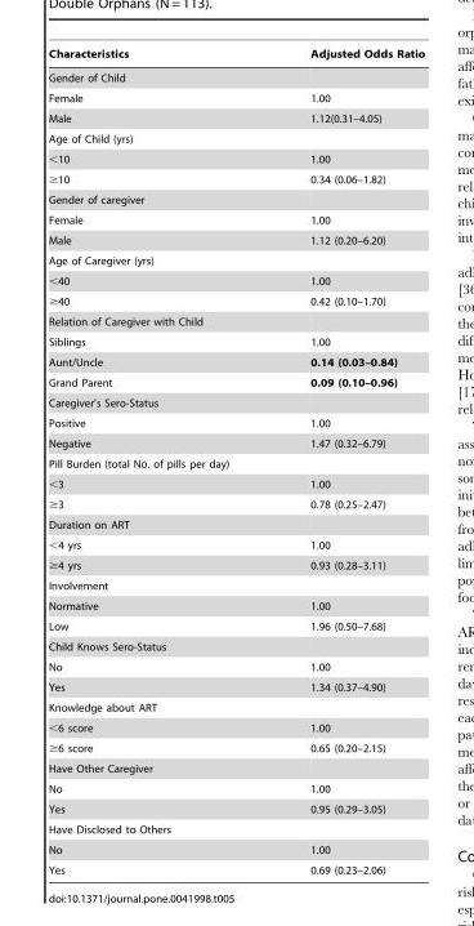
<table><thead><tr><td>Characteristics</td><td>Adjusted Odds Ratio</td></tr></thead><tbody><tr><td colspan="2">Gender of Child</td></tr><tr><td>Female</td><td>1.00</td></tr><tr><td>Male</td><td>1.12(0.31–4.05)</td></tr><tr><td colspan="2">Age of Child (yrs)</td></tr><tr><td>&lt;10</td><td>1.00</td></tr><tr><td>≥10</td><td>0.34 (0.06–1.82)</td></tr><tr><td colspan="2">Gender of caregiver</td></tr><tr><td>Female</td><td>1.00</td></tr><tr><td>Male</td><td>1.12 (0.20–6.20)</td></tr><tr><td colspan="2">Age of Caregiver (yrs)</td></tr><tr><td>&lt;40</td><td>1.00</td></tr><tr><td>≥40</td><td>0.42 (0.10–1.70)</td></tr><tr><td colspan="2">Relation of Caregiver with Child</td></tr><tr><td>Siblings</td><td>1.00</td></tr><tr><td>Aunt/Uncle</td><td>0.14 (0.03–0.84)</td></tr><tr><td>Grand Parent</td><td>0.09 (0.10–0.96)</td></tr><tr><td colspan="2">Caregiver’s Sero-Status</td></tr><tr><td>Positive</td><td>1.00</td></tr><tr><td>Negative</td><td>1.47 (0.32–6.79)</td></tr><tr><td colspan="2">Pill Burden (total No. of pills per day)</td></tr><tr><td>&lt;3</td><td>1.00</td></tr><tr><td>≥3</td><td>0.78 (0.25–2.47)</td></tr><tr><td colspan="2">Duration on ART</td></tr><tr><td>&lt;4 yrs</td><td>1.00</td></tr><tr><td>≥4 yrs</td><td>0.93 (0.28–3.11)</td></tr><tr><td colspan="2">Involvement</td></tr><tr><td>Normative</td><td>1.00</td></tr><tr><td>Low</td><td>1.96 (0.50–7.68)</td></tr><tr><td colspan="2">Child Knows Sero-Status</td></tr><tr><td>No</td><td>1.00</td></tr><tr><td>Yes</td><td>1.34 (0.37–4.90)</td></tr><tr><td colspan="2">Knowledge about ART</td></tr><tr><td>&lt;6 score</td><td>1.00</td></tr><tr><td>≥6 score</td><td>0.65 (0.20–2.15)</td></tr><tr><td colspan="2">Have Other Caregiver</td></tr><tr><td>No</td><td>1.00</td></tr><tr><td>Yes</td><td>0.95 (0.29–3.05)</td></tr><tr><td colspan="2">Have Disclosed to Others</td></tr><tr><td>No</td><td>1.00</td></tr><tr><td>Yes</td><td>0.69 (0.23–2.06)</td></tr></tbody></table>